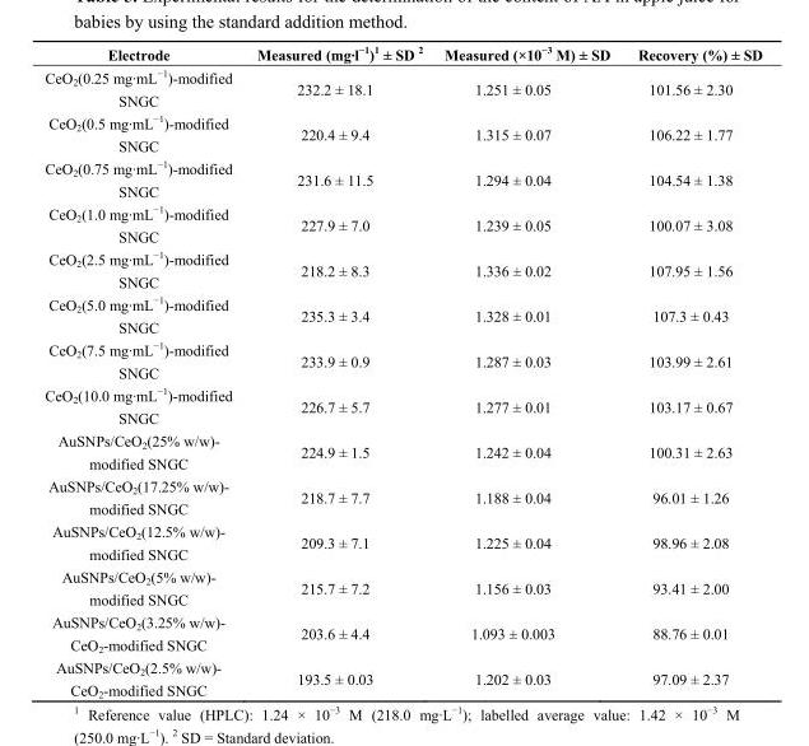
<table><thead><tr><td>Electrode</td><td>Measured (mg·l<sup>−1</sup>)<sup>1</sup> ± SD <sup>2</sup></td><td>Measured (×10<sup>−3</sup> M) ± SD</td><td>Recovery (%) ± SD</td></tr></thead><tbody><tr><td>CeO<sub>2</sub>(0.25 mg·mL<sup>−1</sup>)-modified SNGC</td><td>232.2 ± 18.1</td><td>1.251 ± 0.05</td><td>101.56 ± 2.30</td></tr><tr><td>CeO<sub>2</sub>(0.5 mg·mL<sup>−1</sup>)-modified SNGC</td><td>220.4 ± 9.4</td><td>1.315 ± 0.07</td><td>106.22 ± 1.77</td></tr><tr><td>CeO<sub>2</sub>(0.75 mg·mL<sup>−1</sup>)-modified SNGC</td><td>231.6 ± 11.5</td><td>1.294 ± 0.04</td><td>104.54 ± 1.38</td></tr><tr><td>CeO<sub>2</sub>(1.0 mg·mL<sup>−1</sup>)-modified SNGC</td><td>227.9 ± 7.0</td><td>1.239 ± 0.05</td><td>100.07 ± 3.08</td></tr><tr><td>CeO<sub>2</sub>(2.5 mg·mL<sup>−1</sup>)-modified SNGC</td><td>218.2 ± 8.3</td><td>1.336 ± 0.02</td><td>107.95 ± 1.56</td></tr><tr><td>CeO<sub>2</sub>(5.0 mg·mL<sup>−1</sup>)-modified SNGC</td><td>235.3 ± 3.4</td><td>1.328 ± 0.01</td><td>107.3 ± 0.43</td></tr><tr><td>CeO<sub>2</sub>(7.5 mg·mL<sup>−1</sup>)-modified SNGC</td><td>233.9 ± 0.9</td><td>1.287 ± 0.03</td><td>103.99 ± 2.61</td></tr><tr><td>CeO<sub>2</sub>(10.0 mg·mL<sup>−1</sup>)-modified SNGC</td><td>226.7 ± 5.7</td><td>1.277 ± 0.01</td><td>103.17 ± 0.67</td></tr><tr><td>AuSNPs/CeO<sub>2</sub>(25% w/w)- modified SNGC</td><td>224.9 ± 1.5</td><td>1.242 ± 0.04</td><td>100.31 ± 2.63</td></tr><tr><td>AuSNPs/CeO<sub>2</sub>(17.25% w/w)- modified SNGC</td><td>218.7 ± 7.7</td><td>1.188 ± 0.04</td><td>96.01 ± 1.26</td></tr><tr><td>AuSNPs/CeO<sub>2</sub>(12.5% w/w)- modified SNGC</td><td>209.3 ± 7.1</td><td>1.225 ± 0.04</td><td>98.96 ± 2.08</td></tr><tr><td>AuSNPs/CeO<sub>2</sub>(5% w/w)- modified SNGC</td><td>215.7 ± 7.2</td><td>1.156 ± 0.03</td><td>93.41 ± 2.00</td></tr><tr><td>AuSNPs/CeO<sub>2</sub>(3.25% w/w)- CeO<sub>2</sub>-modified SNGC</td><td>203.6 ± 4.4</td><td>1.093 ± 0.003</td><td>88.76 ± 0.01</td></tr><tr><td>AuSNPs/CeO<sub>2</sub>(2.5% w/w)- CeO<sub>2</sub>-modified SNGC</td><td>193.5 ± 0.03</td><td>1.202 ± 0.03</td><td>97.09 ± 2.37</td></tr></tbody></table>